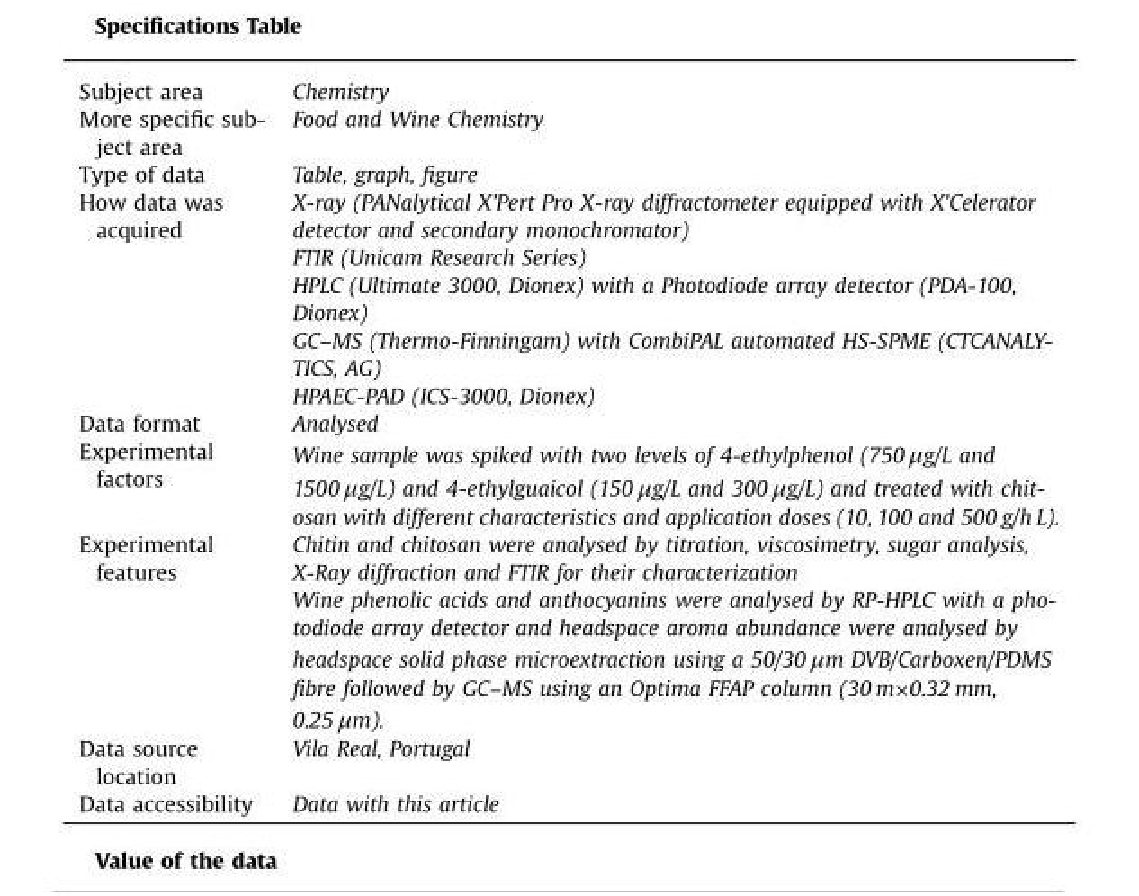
<table><tbody><tr><td>Subject area</td><td>Chemistry</td></tr><tr><td>More specific sub- ject area</td><td>Food and Wine Chemistry</td></tr><tr><td>Type of data</td><td>Table, graph, figure</td></tr><tr><td rowspan="5">How data was acquired</td><td>X-ray (PANalytical X’Pert Pro X-ray diffractometer equipped with X’Celerator detector and secondary monochromator)</td></tr><tr><td>FTIR (Unicam Research Series)</td></tr><tr><td>HPLC (Ultimate 3000, Dionex) with a Photodiode array detector (PDA-100, Dionex)</td></tr><tr><td>GC–MS (Thermo-Finningam) with CombiPAL automated HS-SPME (CTCANALY- TICS, AG)</td></tr><tr><td>HPAEC-PAD (ICS-3000, Dionex)</td></tr><tr><td>Data format</td><td>Analysed</td></tr><tr><td>Experimental factors</td><td>Wine sample was spiked with two levels of 4-ethylphenol (750 μg/L and 1500 μg/L) and 4-ethylguaicol (150 μg/L and 300 μg/L) and treated with chit- osan with different characteristics and application doses (10, 100 and 500 g/h L).</td></tr><tr><td rowspan="2">Experimental features</td><td>Chitin and chitosan were analysed by titration, viscosimetry, sugar analysis, X-Ray diffraction and FTIR for their characterization</td></tr><tr><td>Wine phenolic acids and anthocyanins were analysed by RP-HPLC with a pho- todiode array detector and headspace aroma abundance were analysed by headspace solid phase microextraction using a 50/30 μm DVB/Carboxen/PDMS fibre followed by GC–MS using an Optima FFAP column (30 m×0.32 mm, 0.25 μm).</td></tr><tr><td>Data source location</td><td>Vila Real, Portugal</td></tr><tr><td>Data accessibility</td><td>Data with this article</td></tr></tbody></table>